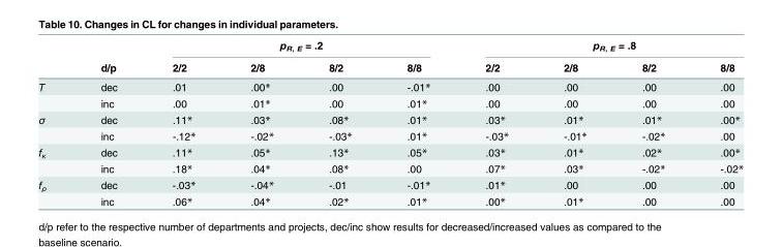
<table><thead><tr><td rowspan="2"></td><td rowspan="2">d/p</td><td colspan="4">p<sub>R, E</sub> = .2</td><td colspan="4">p<sub>R, E</sub> = .8</td></tr><tr><td>2/2</td><td>2/8</td><td>8/2</td><td>8/8</td><td>2/2</td><td>2/8</td><td>8/2</td><td>8/8</td></tr></thead><tbody><tr><td rowspan="2">T</td><td>dec</td><td>.01</td><td>.00*</td><td>.00</td><td>-.01*</td><td>.00</td><td>.00</td><td>.00</td><td>.00</td></tr><tr><td>inc</td><td>.00</td><td>.01*</td><td>.00</td><td>.01*</td><td>.00</td><td>.00</td><td>.00</td><td>.00</td></tr><tr><td rowspan="2">σ</td><td>dec</td><td>.11*</td><td>.03*</td><td>.08*</td><td>.01*</td><td>.03*</td><td>.01*</td><td>.01*</td><td>.00*</td></tr><tr><td>inc</td><td>-.12*</td><td>-.02*</td><td>-.03*</td><td>.01*</td><td>-.03*</td><td>-.01*</td><td>-.02*</td><td>.00</td></tr><tr><td rowspan="2">f<sub>κ</sub></td><td>dec</td><td>.11*</td><td>.05*</td><td>.13*</td><td>.05*</td><td>.03*</td><td>.01*</td><td>.02*</td><td>.00*</td></tr><tr><td>inc</td><td>.18*</td><td>.04*</td><td>.08*</td><td>.00</td><td>.07*</td><td>.03*</td><td>-.02*</td><td>-.02*</td></tr><tr><td rowspan="2">f<sub>ρ</sub></td><td>dec</td><td>-.03*</td><td>-.04*</td><td>-.01</td><td>-.01*</td><td>.01*</td><td>.00</td><td>.00</td><td>.00</td></tr><tr><td>inc</td><td>.06*</td><td>.04*</td><td>.02*</td><td>.01*</td><td>.00*</td><td>.01*</td><td>.00</td><td>.00</td></tr></tbody></table>